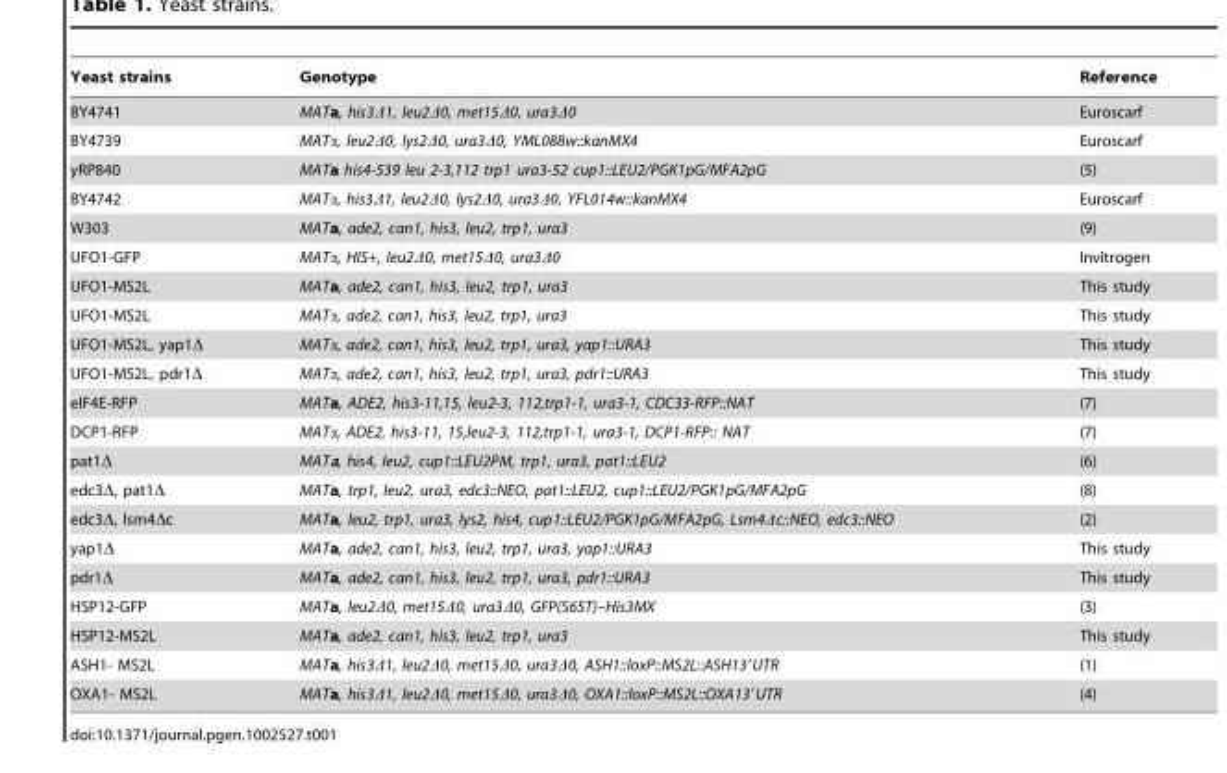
<table><thead><tr><td>Yeast strains</td><td>Genotype</td><td>Reference</td></tr></thead><tbody><tr><td>BY4741</td><td>MATa, his3Δ1, leu2Δ0, met15Δ0, ura3Δ0</td><td>Euroscarf</td></tr><tr><td>BY4739</td><td>MATα, leu2Δ0, lys2Δ0, ura3Δ0, YML088w::kanMX4</td><td>Euroscarf</td></tr><tr><td>yRP840</td><td>MATa his4-539 leu 2-3,112 trp1 ura3-52 cup1::LEU2/PGK1pG/MFA2pG</td><td>(5)</td></tr><tr><td>BY4742</td><td>MATα, his3Δ1, leu2Δ0, lys2Δ0, ura3Δ0, YFL014w::kanMX4</td><td>Euroscarf</td></tr><tr><td>W303</td><td>MATa, ade2, can1, his3, leu2, trp1, ura3</td><td>(9)</td></tr><tr><td>UFO1-GFP</td><td>MATα, HIS+, leu2Δ0, met15Δ0, ura3Δ0</td><td>Invitrogen</td></tr><tr><td>UFO1-MS2L</td><td>MATa, ade2, can1, his3, leu2, trp1, ura3</td><td>This study</td></tr><tr><td>UFO1-MS2L</td><td>MATα, ade2, can1, his3, leu2, trp1, ura3</td><td>This study</td></tr><tr><td>UFO1-MS2L, yap1Δ</td><td>MATα, ade2, can1, his3, leu2, trp1, ura3, yap1::URA3</td><td>This study</td></tr><tr><td>UFO1-MS2L, pdr1Δ</td><td>MATα, ade2, can1, his3, leu2, trp1, ura3, pdr1::URA3</td><td>This study</td></tr><tr><td>eIF4E-RFP</td><td>MATa, ADE2, his3-11,15, leu2-3, 112,trp1-1, ura3-1, CDC33-RFP::NAT</td><td>(7)</td></tr><tr><td>DCP1-RFP</td><td>MATα, ADE2, his3-11, 15,leu2-3, 112,trp1-1, ura3-1, DCP1-RFP:: NAT</td><td>(7)</td></tr><tr><td>pat1Δ</td><td>MATa, his4, leu2, cup1::LEU2PM, trp1, ura3, pat1::LEU2</td><td>(6)</td></tr><tr><td>edc3Δ, pat1Δ</td><td>MATa, trp1, leu2, ura3, edc3::NEO, pat1::LEU2, cup1::LEU2/PGK1pG/MFA2pG</td><td>(8)</td></tr><tr><td>edc3Δ, lsm4Δc</td><td>MATa, leu2, trp1, ura3, lys2, his4, cup1::LEU2/PGK1pG/MFA2pG, Lsm4Δc::NEO, edc3::NEO</td><td>(2)</td></tr><tr><td>yap1Δ</td><td>MATa, ade2, can1, his3, leu2, trp1, ura3, yap1::URA3</td><td>This study</td></tr><tr><td>pdr1Δ</td><td>MATa, ade2, can1, his3, leu2, trp1, ura3, pdr1::URA3</td><td>This study</td></tr><tr><td>HSP12-GFP</td><td>MATa, leu2Δ0, met15Δ0, ura3Δ0, GFP(S65T)–His3MX</td><td>(3)</td></tr><tr><td>HSP12-MS2L</td><td>MATa, ade2, can1, his3, leu2, trp1, ura3</td><td>This study</td></tr><tr><td>ASH1- MS2L</td><td>MATa, his3Δ1, leu2Δ0, met15Δ0, ura3Δ0, ASH1::loxP::MS2L::ASH13′UTR</td><td>(1)</td></tr><tr><td>OXA1- MS2L</td><td>MATa, his3Δ1, leu2Δ0, met15Δ0, ura3Δ0, OXA1::loxP::MS2L::OXA13′UTR</td><td>(4)</td></tr></tbody></table>